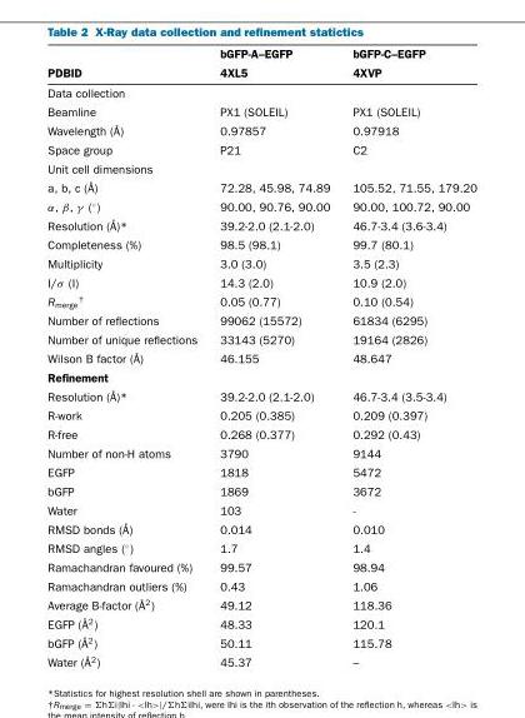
<table><thead><tr><td>PDBID</td><td>bGFP-A–EGFP 4XL5</td><td>bGFP-C–EGFP 4XVP</td></tr></thead><tbody><tr><td colspan="3">Data collection</td></tr><tr><td>Beamline</td><td>PX1 (SOLEIL)</td><td>PX1 (SOLEIL)</td></tr><tr><td>Wavelength (˚A)</td><td>0.97857</td><td>0.97918</td></tr><tr><td>Space group</td><td>P21</td><td>C2</td></tr><tr><td colspan="3">Unit cell dimensions</td></tr><tr><td>a, b, c (˚A)</td><td>72.28, 45.98, 74.89</td><td>105.52, 71.55, 179.20</td></tr><tr><td>α, β, γ (◦)</td><td>90.00, 90.76, 90.00</td><td>90.00, 100.72, 90.00</td></tr><tr><td>Resolution (˚A)*</td><td>39.2-2.0 (2.1-2.0)</td><td>46.7-3.4 (3.6-3.4)</td></tr><tr><td>Completeness (%)</td><td>98.5 (98.1)</td><td>99.7 (80.1)</td></tr><tr><td>Multiplicity</td><td>3.0 (3.0)</td><td>3.5 (2.3)</td></tr><tr><td>I/σ (I)</td><td>14.3 (2.0)</td><td>10.9 (2.0)</td></tr><tr><td>Rmerge†</td><td>0.05 (0.77)</td><td>0.10 (0.54)</td></tr><tr><td>Number of reflections</td><td>99062 (15572)</td><td>61834 (6295)</td></tr><tr><td>Number of unique reflections</td><td>33143 (5270)</td><td>19164 (2826)</td></tr><tr><td>Wilson B factor (˚A)</td><td>46.155</td><td>48.647</td></tr><tr><td colspan="3">Refinement</td></tr><tr><td>Resolution (˚A)*</td><td>39.2-2.0 (2.1-2.0)</td><td>46.7-3.4 (3.5-3.4)</td></tr><tr><td>R-work</td><td>0.205 (0.385)</td><td>0.209 (0.397)</td></tr><tr><td>R-free</td><td>0.268 (0.377)</td><td>0.292 (0.43)</td></tr><tr><td>Number of non-H atoms</td><td>3790</td><td>9144</td></tr><tr><td>EGFP</td><td>1818</td><td>5472</td></tr><tr><td>bGFP</td><td>1869</td><td>3672</td></tr><tr><td>Water</td><td>103</td><td>-</td></tr><tr><td>RMSD bonds (˚A)</td><td>0.014</td><td>0.010</td></tr><tr><td>RMSD angles (◦)</td><td>1.7</td><td>1.4</td></tr><tr><td>Ramachandran favoured (%)</td><td>99.57</td><td>98.94</td></tr><tr><td>Ramachandran outliers (%)</td><td>0.43</td><td>1.06</td></tr><tr><td>Average B-factor (˚A2)</td><td>49.12</td><td>118.36</td></tr><tr><td>EGFP (˚A2)</td><td>48.33</td><td>120.1</td></tr><tr><td>bGFP (˚A2)</td><td>50.11</td><td>115.78</td></tr><tr><td>Water (˚A2)</td><td>45.37</td><td>–</td></tr></tbody></table>